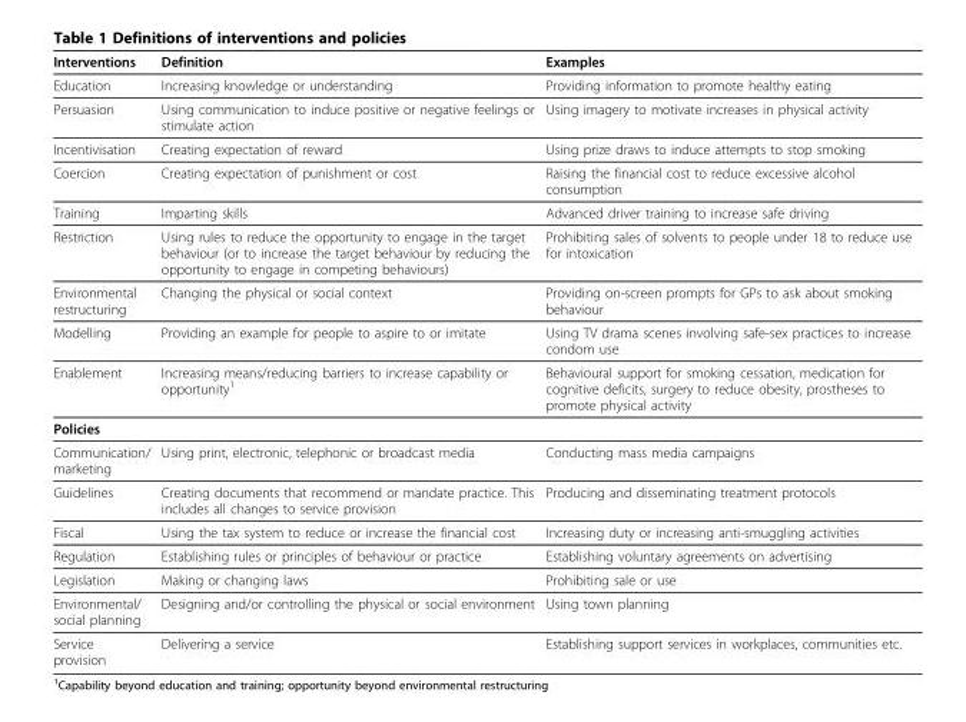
<table><thead><tr><td>Interventions</td><td>Definition</td><td>Examples</td></tr></thead><tbody><tr><td>Education</td><td>Increasing knowledge or understanding</td><td>Providing information to promote healthy eating</td></tr><tr><td>Persuasion</td><td>Using communication to induce positive or negative feelings or stimulate action</td><td>Using imagery to motivate increases in physical activity</td></tr><tr><td>Incentivisation</td><td>Creating expectation of reward</td><td>Using prize draws to induce attempts to stop smoking</td></tr><tr><td>Coercion</td><td>Creating expectation of punishment or cost</td><td>Raising the financial cost to reduce excessive alcohol consumption</td></tr><tr><td>Training</td><td>Imparting skills</td><td>Advanced driver training to increase safe driving</td></tr><tr><td>Restriction</td><td>Using rules to reduce the opportunity to engage in the target behaviour (or to increase the target behaviour by reducing the opportunity to engage in competing behaviours)</td><td>Prohibiting sales of solvents to people under 18 to reduce use for intoxication</td></tr><tr><td>Environmental restructuring</td><td>Changing the physical or social context</td><td>Providing on-screen prompts for GPs to ask about smoking behaviour</td></tr><tr><td>Modelling</td><td>Providing an example for people to aspire to or imitate</td><td>Using TV drama scenes involving safe-sex practices to increase condom use</td></tr><tr><td>Enablement</td><td>Increasing means/reducing barriers to increase capability or opportunity<sup>1</sup></td><td>Behavioural support for smoking cessation, medication for cognitive deficits, surgery to reduce obesity, prostheses to promote physical activity</td></tr><tr><td colspan="3">Policies</td></tr><tr><td>Communication/ marketing</td><td>Using print, electronic, telephonic or broadcast media</td><td>Conducting mass media campaigns</td></tr><tr><td>Guidelines</td><td>Creating documents that recommend or mandate practice. This includes all changes to service provision</td><td>Producing and disseminating treatment protocols</td></tr><tr><td>Fiscal</td><td>Using the tax system to reduce or increase the financial cost</td><td>Increasing duty or increasing anti-smuggling activities</td></tr><tr><td>Regulation</td><td>Establishing rules or principles of behaviour or practice</td><td>Establishing voluntary agreements on advertising</td></tr><tr><td>Legislation</td><td>Making or changing laws</td><td>Prohibiting sale or use</td></tr><tr><td>Environmental/ social planning</td><td>Designing and/or controlling the physical or social environment</td><td>Using town planning</td></tr><tr><td>Service provision</td><td>Delivering a service</td><td>Establishing support services in workplaces, communities etc.</td></tr></tbody></table>